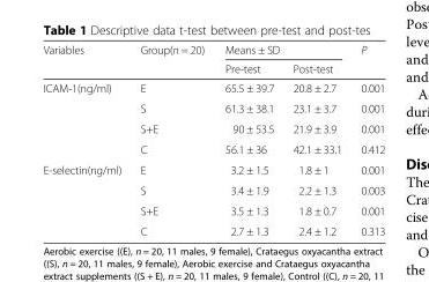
<table><thead><tr><td rowspan="2">Variables</td><td rowspan="2">Group(n = 20)</td><td colspan="2">Means ± SD</td><td rowspan="2">P</td></tr><tr><td>Pre-test</td><td>Post-test</td></tr></thead><tbody><tr><td rowspan="4">ICAM-1(ng/ml)</td><td>E</td><td>65.5 ± 39.7</td><td>20.8 ± 2.7</td><td>0.001</td></tr><tr><td>S</td><td>61.3 ± 38.1</td><td>23.1 ± 3.7</td><td>0.001</td></tr><tr><td>S+E</td><td>90 ± 53.5</td><td>21.9 ± 3.9</td><td>0.001</td></tr><tr><td>C</td><td>56.1 ± 36</td><td>42.1 ± 33.1</td><td>0.412</td></tr><tr><td rowspan="4">E-selectin(ng/ml)</td><td>E</td><td>3.2 ± 1.5</td><td>1.8 ± 1</td><td>0.001</td></tr><tr><td>S</td><td>3.4 ± 1.9</td><td>2.2 ± 1.3</td><td>0.003</td></tr><tr><td>S+E</td><td>3.5 ± 1.3</td><td>1.8 ± 0.7</td><td>0.001</td></tr><tr><td>C</td><td>2.7 ± 1.3</td><td>2.4 ± 1.2</td><td>0.313</td></tr></tbody></table>